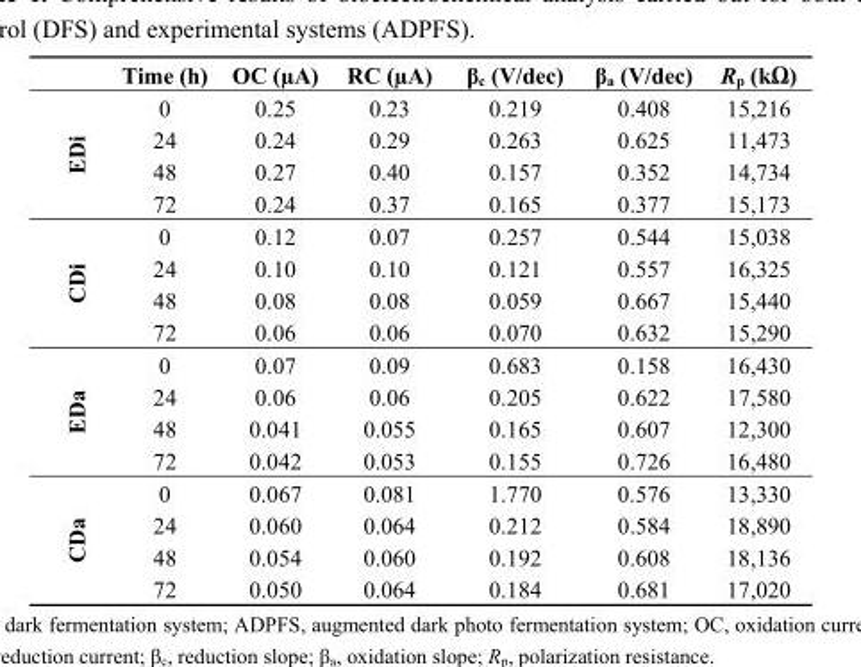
<table><thead><tr><td></td><td>Time (h)</td><td>OC (µA)</td><td>RC (µA)</td><td>β<sub>c</sub> (V/dec)</td><td>β<sub>a</sub> (V/dec)</td><td>R<sub>p</sub> (kΩ)</td></tr></thead><tbody><tr><td rowspan="4">EDi</td><td>0</td><td>0.25</td><td>0.23</td><td>0.219</td><td>0.408</td><td>15,216</td></tr><tr><td>24</td><td>0.24</td><td>0.29</td><td>0.263</td><td>0.625</td><td>11,473</td></tr><tr><td>48</td><td>0.27</td><td>0.40</td><td>0.157</td><td>0.352</td><td>14,734</td></tr><tr><td>72</td><td>0.24</td><td>0.37</td><td>0.165</td><td>0.377</td><td>15,173</td></tr><tr><td rowspan="4">CDi</td><td>0</td><td>0.12</td><td>0.07</td><td>0.257</td><td>0.544</td><td>15,038</td></tr><tr><td>24</td><td>0.10</td><td>0.10</td><td>0.121</td><td>0.557</td><td>16,325</td></tr><tr><td>48</td><td>0.08</td><td>0.08</td><td>0.059</td><td>0.667</td><td>15,440</td></tr><tr><td>72</td><td>0.06</td><td>0.06</td><td>0.070</td><td>0.632</td><td>15,290</td></tr><tr><td rowspan="4">EDa</td><td>0</td><td>0.07</td><td>0.09</td><td>0.683</td><td>0.158</td><td>16,430</td></tr><tr><td>24</td><td>0.06</td><td>0.06</td><td>0.205</td><td>0.622</td><td>17,580</td></tr><tr><td>48</td><td>0.041</td><td>0.055</td><td>0.165</td><td>0.607</td><td>12,300</td></tr><tr><td>72</td><td>0.042</td><td>0.053</td><td>0.155</td><td>0.726</td><td>16,480</td></tr><tr><td rowspan="4">CDa</td><td>0</td><td>0.067</td><td>0.081</td><td>1.770</td><td>0.576</td><td>13,330</td></tr><tr><td>24</td><td>0.060</td><td>0.064</td><td>0.212</td><td>0.584</td><td>18,890</td></tr><tr><td>48</td><td>0.054</td><td>0.060</td><td>0.192</td><td>0.608</td><td>18,136</td></tr><tr><td>72</td><td>0.050</td><td>0.064</td><td>0.184</td><td>0.681</td><td>17,020</td></tr></tbody></table>